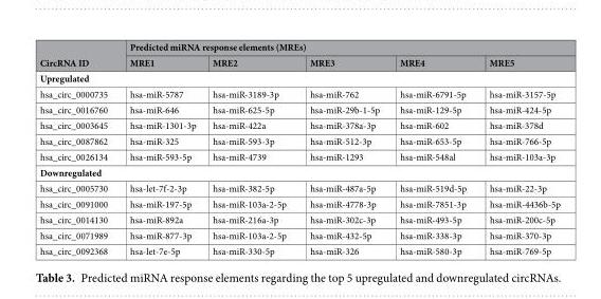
<table><thead><tr><td rowspan="2">CircRNA ID</td><td colspan="5">Predicted miRNA response elements (MREs)</td></tr><tr><td>MRE1</td><td>MRE2</td><td>MRE3</td><td>MRE4</td><td>MRE5</td></tr></thead><tbody><tr><td colspan="6">Upregulated</td></tr><tr><td>hsa_circ_0000735</td><td>hsa-miR-5787</td><td>hsa-miR-3189-3p</td><td>hsa-miR-762</td><td>hsa-miR-6791-5p</td><td>hsa-miR-3157-5p</td></tr><tr><td>hsa_circ_0016760</td><td>hsa-miR-646</td><td>hsa-miR-625-5p</td><td>hsa-miR-29b-1-5p</td><td>hsa-miR-129-5p</td><td>hsa-miR-424-5p</td></tr><tr><td>hsa_circ_0003645</td><td>hsa-miR-1301-3p</td><td>hsa-miR-422a</td><td>hsa-miR-378a-3p</td><td>hsa-miR-602</td><td>hsa-miR-378d</td></tr><tr><td>hsa_circ_0087862</td><td>hsa-miR-325</td><td>hsa-miR-593-3p</td><td>hsa-miR-512-3p</td><td>hsa-miR-653-5p</td><td>hsa-miR-766-5p</td></tr><tr><td>hsa_circ_0026134</td><td>hsa-miR-593-5p</td><td>hsa-miR-4739</td><td>hsa-miR-1293</td><td>hsa-miR-548al</td><td>hsa-miR-103a-3p</td></tr><tr><td colspan="6">Downregulated</td></tr><tr><td>hsa_circ_0005730</td><td>hsa-let-7f-2-3p</td><td>hsa-miR-382-5p</td><td>hsa-miR-487a-5p</td><td>hsa-miR-519d-5p</td><td>hsa-miR-22-3p</td></tr><tr><td>hsa_circ_0091000</td><td>hsa-miR-197-5p</td><td>hsa-miR-103a-2-5p</td><td>hsa-miR-4778-3p</td><td>hsa-miR-7851-3p</td><td>hsa-miR-4436b-5p</td></tr><tr><td>hsa_circ_0014130</td><td>hsa-miR-892a</td><td>hsa-miR-216a-3p</td><td>hsa-miR-302c-3p</td><td>hsa-miR-493-5p</td><td>hsa-miR-200c-5p</td></tr><tr><td>hsa_circ_0071989</td><td>hsa-miR-877-3p</td><td>hsa-miR-103a-2-5p</td><td>hsa-miR-432-5p</td><td>hsa-miR-338-3p</td><td>hsa-miR-370-3p</td></tr><tr><td>hsa_circ_0092368</td><td>hsa-let-7e-5p</td><td>hsa-miR-330-5p</td><td>hsa-miR-326</td><td>hsa-miR-580-3p</td><td>hsa-miR-769-5p</td></tr></tbody></table>